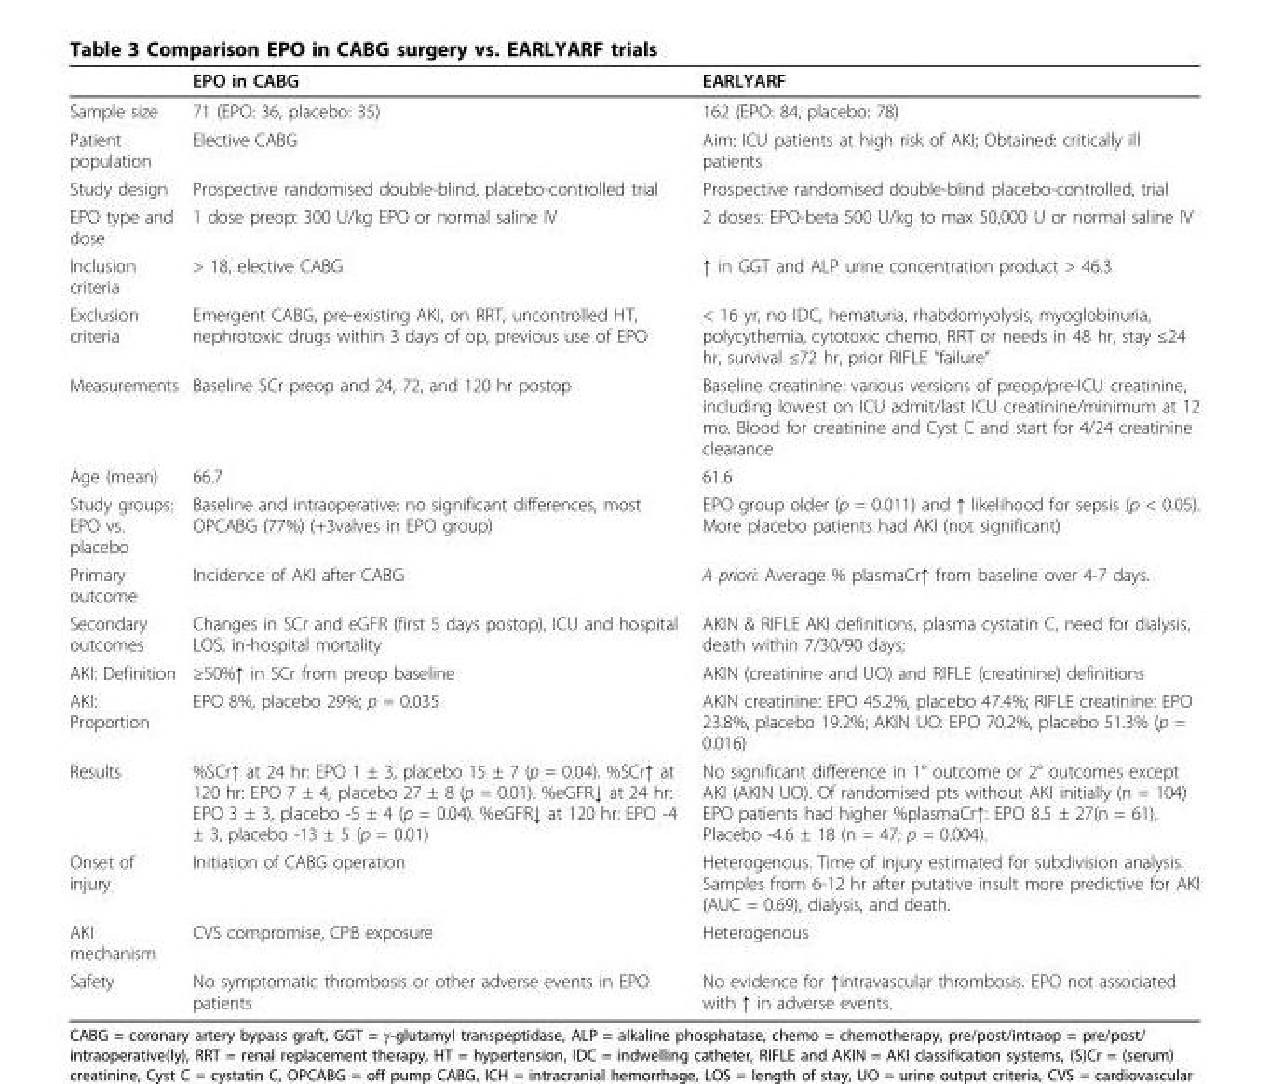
<table><thead><tr><td></td><td>EPO in CABG</td><td>EARLYARF</td></tr></thead><tbody><tr><td>Sample size</td><td>71 (EPO: 36, placebo: 35)</td><td>162 (EPO: 84, placebo: 78)</td></tr><tr><td>Patient population</td><td>Elective CABG</td><td>Aim: ICU patients at high risk of AKI; Obtained: critically ill patients</td></tr><tr><td>Study design</td><td>Prospective randomised double-blind, placebo-controlled trial</td><td>Prospective randomised double-blind placebo-controlled, trial</td></tr><tr><td>EPO type and dose</td><td>1 dose preop: 300 U/kg EPO or normal saline IV</td><td>2 doses: EPO-beta 500 U/kg to max 50,000 U or normal saline IV</td></tr><tr><td>Inclusion criteria</td><td>&gt; 18, elective CABG</td><td>↑ in GGT and ALP urine concentration product &gt; 46.3</td></tr><tr><td>Exclusion criteria</td><td>Emergent CABG, pre-existing AKI, on RRT, uncontrolled HT, nephrotoxic drugs within 3 days of op, previous use of EPO</td><td>&lt; 16 yr, no IDC, hematuria, rhabdomyolysis, myoglobinuria, polycythemia, cytotoxic chemo, RRT or needs in 48 hr, stay ≤24 hr, survival ≤72 hr, prior RIFLE “failure”</td></tr><tr><td>Measurements</td><td>Baseline SCr preop and 24, 72, and 120 hr postop</td><td>Baseline creatinine: various versions of preop/pre-ICU creatinine, including lowest on ICU admit/last ICU creatinine/minimum at 12 mo. Blood for creatinine and Cyst C and start for 4/24 creatinine clearance</td></tr><tr><td>Age (mean)</td><td>66.7</td><td>61.6</td></tr><tr><td>Study groups: EPO vs. placebo</td><td>Baseline and intraoperative: no significant differences, most OPCABG (77%) (+3valves in EPO group)</td><td>EPO group older (p = 0.011) and ↑ likelihood for sepsis (p &lt; 0.05). More placebo patients had AKI (not significant)</td></tr><tr><td>Primary outcome</td><td>Incidence of AKI after CABG</td><td>A priori: Average % plasmaCr↑ from baseline over 4-7 days.</td></tr><tr><td>Secondary outcomes</td><td>Changes in SCr and eGFR (first 5 days postop), ICU and hospital LOS, in-hospital mortality</td><td>AKIN &amp; RIFLE AKI definitions, plasma cystatin C, need for dialysis, death within 7/30/90 days;</td></tr><tr><td>AKI: Definition</td><td>≥50%↑ in SCr from preop baseline</td><td>AKIN (creatinine and UO) and RIFLE (creatinine) definitions</td></tr><tr><td>AKI: Proportion</td><td>EPO 8%, placebo 29%; p = 0.035</td><td>AKIN creatinine: EPO 45.2%, placebo 47.4%; RIFLE creatinine: EPO 23.8%, placebo 19.2%; AKIN UO: EPO 70.2%, placebo 51.3% (p = 0.016)</td></tr><tr><td>Results</td><td>%SCr↑ at 24 hr: EPO 1 ± 3, placebo 15 ± 7 (p = 0.04). %SCr↑ at 120 hr: EPO 7 ± 4, placebo 27 ± 8 (p = 0.01). %eGFR↓ at 24 hr: EPO 3 ± 3, placebo -5 ± 4 (p = 0.04). %eGFR↓ at 120 hr: EPO -4 ± 3, placebo -13 ± 5 (p = 0.01)</td><td>No significant difference in 1° outcome or 2° outcomes except AKI (AKIN UO). Of randomised pts without AKI initially (n = 104) EPO patients had higher %plasmaCr↑: EPO 8.5 ± 27(n = 61), Placebo -4.6 ± 18 (n = 47; p = 0.004).</td></tr><tr><td>Onset of injury</td><td>Initiation of CABG operation</td><td>Heterogenous. Time of injury estimated for subdivision analysis. Samples from 6-12 hr after putative insult more predictive for AKI (AUC = 0.69), dialysis, and death.</td></tr><tr><td>AKI mechanism</td><td>CVS compromise, CPB exposure</td><td>Heterogenous</td></tr><tr><td>Safety</td><td>No symptomatic thrombosis or other adverse events in EPO patients</td><td>No evidence for ↑intravascular thrombosis. EPO not associated with ↑ in adverse events.</td></tr></tbody></table>